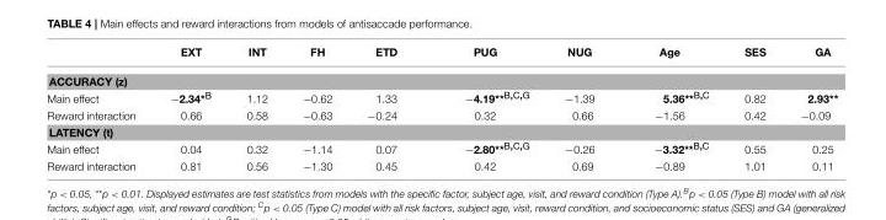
<table><thead><tr><td></td><td>EXT</td><td>INT</td><td>FH</td><td>ETD</td><td>PUG</td><td>NUG</td><td>Age</td><td>SES</td><td>GA</td></tr></thead><tbody><tr><td colspan="10">ACCURACY (z)</td></tr><tr><td>Main effect</td><td>−2.34<sup>*B</sup></td><td>1.12</td><td>−0.62</td><td>1.33</td><td>−4.19<sup>**B,C,G</sup></td><td>−1.39</td><td>5.36<sup>**B,C</sup></td><td>0.82</td><td>2.93**</td></tr><tr><td>Reward interaction</td><td>0.66</td><td>0.58</td><td>−0.63</td><td>−0.24</td><td>0.32</td><td>0.66</td><td>−1.56</td><td>0.42</td><td>−0.09</td></tr><tr><td colspan="10">LATENCY (t)</td></tr><tr><td>Main effect</td><td>0.04</td><td>0.32</td><td>−1.14</td><td>0.07</td><td>−2.80<sup>**B,C,G</sup></td><td>−0.26</td><td>−3.32<sup>**B,C</sup></td><td>0.55</td><td>0.25</td></tr><tr><td>Reward interaction</td><td>0.81</td><td>0.56</td><td>−1.30</td><td>0.45</td><td>0.42</td><td>0.69</td><td>−0.89</td><td>1.01</td><td>0.11</td></tr></tbody></table>